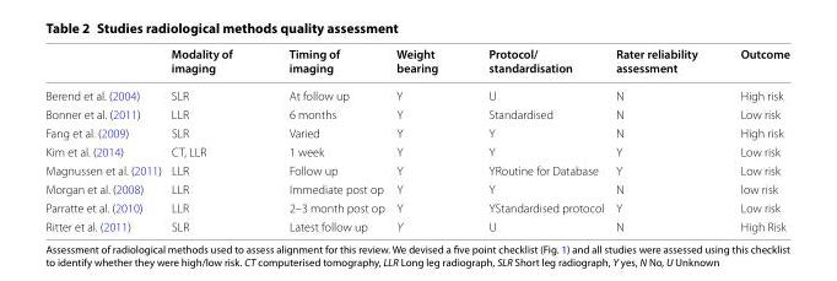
<table><thead><tr><td></td><td>Modality of imaging</td><td>Timing of imaging</td><td>Weight bearing</td><td>Protocol/ standardisation</td><td>Rater reliability assessment</td><td>Outcome</td></tr></thead><tbody><tr><td>Berend et al. (2004)</td><td>SLR</td><td>At follow up</td><td>Y</td><td>U</td><td>N</td><td>High risk</td></tr><tr><td>Bonner et al. (2011)</td><td>LLR</td><td>6 months</td><td>Y</td><td>Standardised</td><td>N</td><td>Low risk</td></tr><tr><td>Fang et al. (2009)</td><td>SLR</td><td>Varied</td><td>Y</td><td>Y</td><td>N</td><td>High risk</td></tr><tr><td>Kim et al. (2014)</td><td>CT, LLR</td><td>1 week</td><td>Y</td><td>Y</td><td>Y</td><td>Low risk</td></tr><tr><td>Magnussen et al. (2011)</td><td>LLR</td><td>Follow up</td><td>Y</td><td>YRoutine for Database</td><td>Y</td><td>Low risk</td></tr><tr><td>Morgan et al. (2008)</td><td>LLR</td><td>Immediate post op</td><td>Y</td><td>Y</td><td>N</td><td>low risk</td></tr><tr><td>Parratte et al. (2010)</td><td>LLR</td><td>2–3 month post op</td><td>Y</td><td>YStandardised protocol</td><td>Y</td><td>Low risk</td></tr><tr><td>Ritter et al. (2011)</td><td>SLR</td><td>Latest follow up</td><td>Y</td><td>U</td><td>N</td><td>High Risk</td></tr></tbody></table>